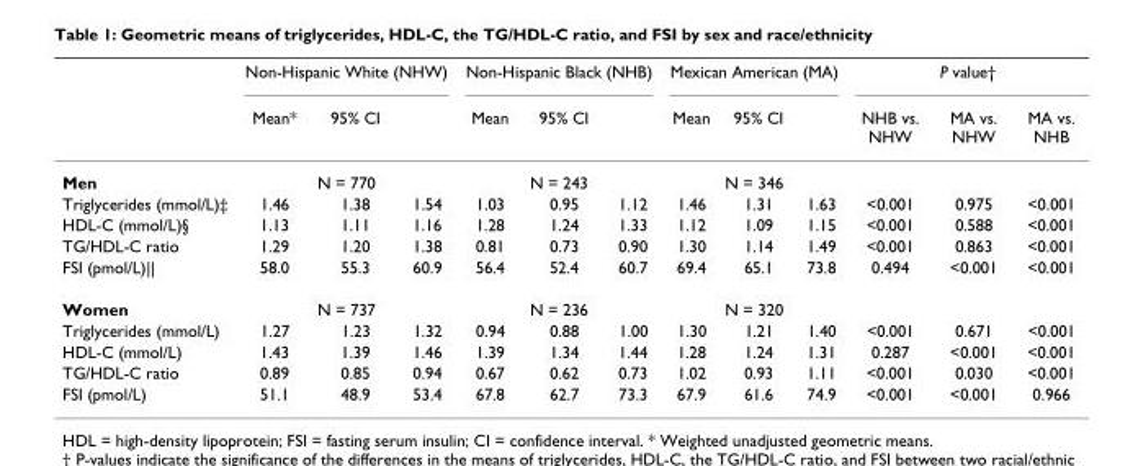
<table><thead><tr><td rowspan="2"></td><td colspan="3">Non-Hispanic White (NHW)</td><td colspan="3">Non-Hispanic Black (NHB)</td><td colspan="3">Mexican American (MA)</td><td colspan="3">P value†</td></tr><tr><td>Mean*</td><td>95% CI</td><td></td><td>Mean</td><td>95% CI</td><td></td><td>Mean</td><td>95% CI</td><td></td><td>NHB vs. NHW</td><td>MA vs. NHW</td><td>MA vs. NHB</td></tr></thead><tbody><tr><td>Men</td><td colspan="3">N = 770</td><td colspan="3">N = 243</td><td colspan="3">N = 346</td><td></td><td></td><td></td></tr><tr><td>Triglycerides (mmol/L)‡</td><td>1.46</td><td>1.38</td><td>1.54</td><td>1.03</td><td>0.95</td><td>1.12</td><td>1.46</td><td>1.31</td><td>1.63</td><td>&lt;0.001</td><td>0.975</td><td>&lt;0.001</td></tr><tr><td>HDL-C (mmol/L)§</td><td>1.13</td><td>1.11</td><td>1.16</td><td>1.28</td><td>1.24</td><td>1.33</td><td>1.12</td><td>1.09</td><td>1.15</td><td>&lt;0.001</td><td>0.588</td><td>&lt;0.001</td></tr><tr><td>TG/HDL-C ratio</td><td>1.29</td><td>1.20</td><td>1.38</td><td>0.81</td><td>0.73</td><td>0.90</td><td>1.30</td><td>1.14</td><td>1.49</td><td>&lt;0.001</td><td>0.863</td><td>&lt;0.001</td></tr><tr><td>FSI (pmol/L)||</td><td>58.0</td><td>55.3</td><td>60.9</td><td>56.4</td><td>52.4</td><td>60.7</td><td>69.4</td><td>65.1</td><td>73.8</td><td>0.494</td><td>&lt;0.001</td><td>&lt;0.001</td></tr><tr><td>Women</td><td colspan="3">N = 737</td><td colspan="3">N = 236</td><td colspan="3">N = 320</td><td></td><td></td><td></td></tr><tr><td>Triglycerides (mmol/L)</td><td>1.27</td><td>1.23</td><td>1.32</td><td>0.94</td><td>0.88</td><td>1.00</td><td>1.30</td><td>1.21</td><td>1.40</td><td>&lt;0.001</td><td>0.671</td><td>&lt;0.001</td></tr><tr><td>HDL-C (mmol/L)</td><td>1.43</td><td>1.39</td><td>1.46</td><td>1.39</td><td>1.34</td><td>1.44</td><td>1.28</td><td>1.24</td><td>1.31</td><td>0.287</td><td>&lt;0.001</td><td>&lt;0.001</td></tr><tr><td>TG/HDL-C ratio</td><td>0.89</td><td>0.85</td><td>0.94</td><td>0.67</td><td>0.62</td><td>0.73</td><td>1.02</td><td>0.93</td><td>1.11</td><td>&lt;0.001</td><td>0.030</td><td>&lt;0.001</td></tr><tr><td>FSI (pmol/L)</td><td>51.1</td><td>48.9</td><td>53.4</td><td>67.8</td><td>62.7</td><td>73.3</td><td>67.9</td><td>61.6</td><td>74.9</td><td>&lt;0.001</td><td>&lt;0.001</td><td>0.966</td></tr></tbody></table>